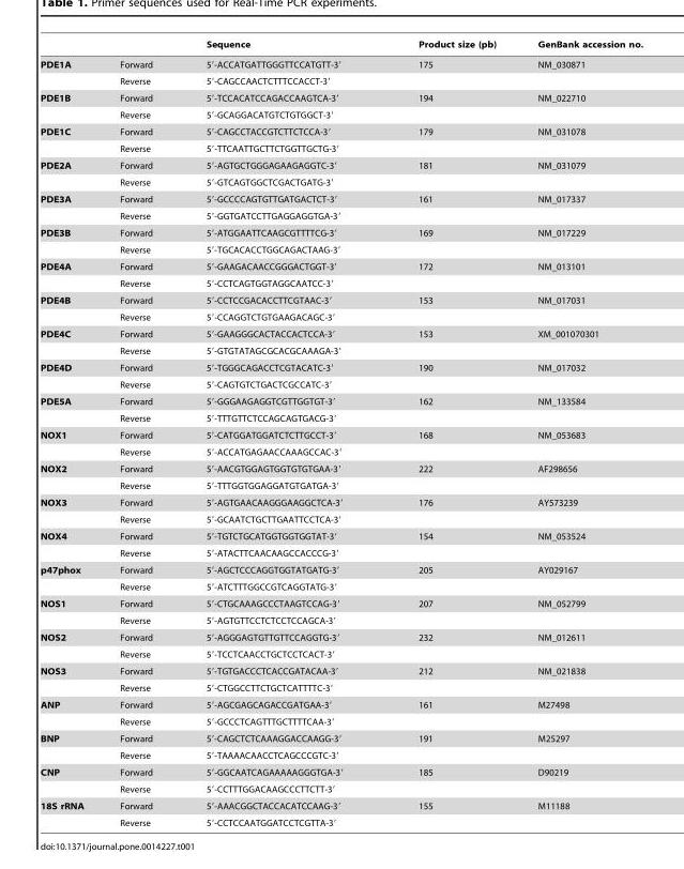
<table><thead><tr><td></td><td></td><td>Sequence</td><td>Product size (pb)</td><td>GenBank accession no.</td></tr></thead><tbody><tr><td rowspan="2">PDE1A</td><td>Forward</td><td>5′-ACCATGATTGGGTTCCATGTT-3′</td><td>175</td><td>NM_030871</td></tr><tr><td>Reverse</td><td>5′-CAGCCAACTCTTTCCACCT-3′</td><td></td><td></td></tr><tr><td rowspan="2">PDE1B</td><td>Forward</td><td>5′-TCCACATCCAGACCAAGTCA-3′</td><td>194</td><td>NM_022710</td></tr><tr><td>Reverse</td><td>5′-GCAGGACATGTCTGTGGCT-3′</td><td></td><td></td></tr><tr><td rowspan="2">PDE1C</td><td>Forward</td><td>5′-CAGCCTACCGTCTTCTCCA-3′</td><td>179</td><td>NM_031078</td></tr><tr><td>Reverse</td><td>5′-TTCAATTGCTTCTGGTTGCTG-3′</td><td></td><td></td></tr><tr><td rowspan="2">PDE2A</td><td>Forward</td><td>5′-AGTGCTGGGAGAAGAGGTC-3′</td><td>181</td><td>NM_031079</td></tr><tr><td>Reverse</td><td>5′-GTCAGTGGCTCGACTGATG-3′</td><td></td><td></td></tr><tr><td rowspan="2">PDE3A</td><td>Forward</td><td>5′-GCCCCAGTGTTGATGACTCT-3′</td><td>161</td><td>NM_017337</td></tr><tr><td>Reverse</td><td>5′-GGTGATCCTTGAGGAGGTGA-3′</td><td></td><td></td></tr><tr><td rowspan="2">PDE3B</td><td>Forward</td><td>5′-ATGGAATTCAAGCGTTTTCG-3′</td><td>169</td><td>NM_017229</td></tr><tr><td>Reverse</td><td>5′-TGCACACCTGGCAGACTAAG-3′</td><td></td><td></td></tr><tr><td rowspan="2">PDE4A</td><td>Forward</td><td>5′-GAAGACAACCGGGACTGGT-3′</td><td>172</td><td>NM_013101</td></tr><tr><td>Reverse</td><td>5′-CCTCAGTGGTAGGCAATCC-3′</td><td></td><td></td></tr><tr><td rowspan="2">PDE4B</td><td>Forward</td><td>5′-CCTCCGACACCTTCGTAAC-3′</td><td>153</td><td>NM_017031</td></tr><tr><td>Reverse</td><td>5′-CCAGGTCTGTGAAGACAGC-3′</td><td></td><td></td></tr><tr><td rowspan="2">PDE4C</td><td>Forward</td><td>5′-GAAGGGCACTACCACTCCA-3′</td><td>153</td><td>XM_001070301</td></tr><tr><td>Reverse</td><td>5′-GTGTATAGCGCACGCAAAGA-3′</td><td></td><td></td></tr><tr><td rowspan="2">PDE4D</td><td>Forward</td><td>5′-TGGGCAGACCTCGTACATC-3′</td><td>190</td><td>NM_017032</td></tr><tr><td>Reverse</td><td>5′-CAGTGTCTGACTCGCCATC-3′</td><td></td><td></td></tr><tr><td rowspan="2">PDE5A</td><td>Forward</td><td>5′-GGGAAGAGGTCGTTGGTGT-3′</td><td>162</td><td>NM_133584</td></tr><tr><td>Reverse</td><td>5′-TTTGTTCTCCAGCAGTGACG-3′</td><td></td><td></td></tr><tr><td rowspan="2">NOX1</td><td>Forward</td><td>5′-CATGGATGGATCTCTTGCCT-3′</td><td>168</td><td>NM_053683</td></tr><tr><td>Reverse</td><td>5′-ACCATGAGAACCAAAGCCAC-3′</td><td></td><td></td></tr><tr><td rowspan="2">NOX2</td><td>Forward</td><td>5′-AACGTGGAGTGGTGTGTGAA-3′</td><td>222</td><td>AF298656</td></tr><tr><td>Reverse</td><td>5′-TTTGGTGGAGGATGTGATGA-3′</td><td></td><td></td></tr><tr><td rowspan="2">NOX3</td><td>Forward</td><td>5′-AGTGAACAAGGGAAGGCTCA-3′</td><td>176</td><td>AY573239</td></tr><tr><td>Reverse</td><td>5′-GCAATCTGCTTGAATTCCTCA-3′</td><td></td><td></td></tr><tr><td rowspan="2">NOX4</td><td>Forward</td><td>5′-TGTCTGCATGGTGGTGGTAT-3′</td><td>154</td><td>NM_053524</td></tr><tr><td>Reverse</td><td>5′-ATACTTCAACAAGCCACCCG-3′</td><td></td><td></td></tr><tr><td rowspan="2">p47phox</td><td>Forward</td><td>5′-AGCTCCCAGGTGGTATGATG-3′</td><td>205</td><td>AY029167</td></tr><tr><td>Reverse</td><td>5′-ATCTTTGGCCGTCAGGTATG-3′</td><td></td><td></td></tr><tr><td rowspan="2">NOS1</td><td>Forward</td><td>5′-CTGCAAAGCCCTAAGTCCAG-3′</td><td>207</td><td>NM_052799</td></tr><tr><td>Reverse</td><td>5′-AGTGTTCCTCTCCTCCAGCA-3′</td><td></td><td></td></tr><tr><td rowspan="2">NOS2</td><td>Forward</td><td>5′-AGGGAGTGTTGTTCCAGGTG-3′</td><td>232</td><td>NM_012611</td></tr><tr><td>Reverse</td><td>5′-TCCTCAACCTGCTCCTCACT-3′</td><td></td><td></td></tr><tr><td rowspan="2">NOS3</td><td>Forward</td><td>5′-TGTGACCCTCACCGATACAA-3′</td><td>212</td><td>NM_021838</td></tr><tr><td>Reverse</td><td>5′-CTGGCCTTCTGCTCATTTTC-3′</td><td></td><td></td></tr><tr><td rowspan="2">ANP</td><td>Forward</td><td>5′-AGCGAGCAGACCGATGAA-3′</td><td>161</td><td>M27498</td></tr><tr><td>Reverse</td><td>5′-GCCCTCAGTTTGCTTTTCAA-3′</td><td></td><td></td></tr><tr><td rowspan="2">BNP</td><td>Forward</td><td>5′-CAGCTCTCAAAGGACCAAGG-3′</td><td>191</td><td>M25297</td></tr><tr><td>Reverse</td><td>5′-TAAAACAACCTCAGCCCGTC-3′</td><td></td><td></td></tr><tr><td rowspan="2">CNP</td><td>Forward</td><td>5′-GGCAATCAGAAAAAGGGTGA-3′</td><td>185</td><td>D90219</td></tr><tr><td>Reverse</td><td>5′-CCTTTGGACAAGCCCTTCTT-3′</td><td></td><td></td></tr><tr><td rowspan="2">18S rRNA</td><td>Forward</td><td>5′-AAACGGCTACCACATCCAAG-3′</td><td>155</td><td>M11188</td></tr><tr><td>Reverse</td><td>5′-CCTCCAATGGATCCTCGTTA-3′</td><td></td><td></td></tr></tbody></table>